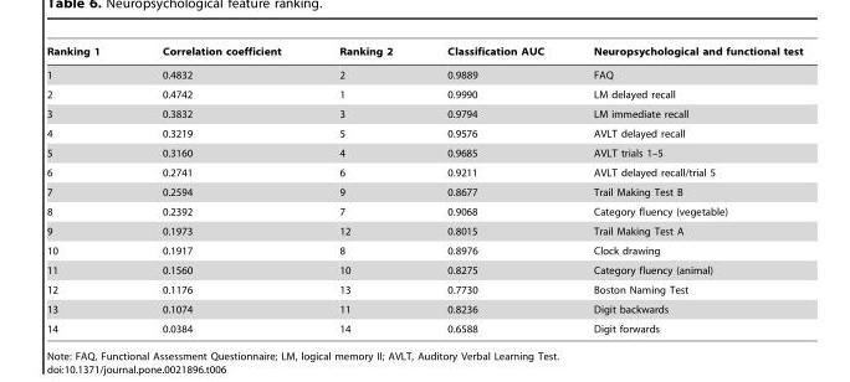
<table><thead><tr><td>Ranking 1</td><td>Correlation coefficient</td><td>Ranking 2</td><td>Classification AUC</td><td>Neuropsychological and functional test</td></tr></thead><tbody><tr><td>1</td><td>0.4832</td><td>2</td><td>0.9889</td><td>FAQ</td></tr><tr><td>2</td><td>0.4742</td><td>1</td><td>0.9990</td><td>LM delayed recall</td></tr><tr><td>3</td><td>0.3832</td><td>3</td><td>0.9794</td><td>LM immediate recall</td></tr><tr><td>4</td><td>0.3219</td><td>5</td><td>0.9576</td><td>AVLT delayed recall</td></tr><tr><td>5</td><td>0.3160</td><td>4</td><td>0.9685</td><td>AVLT trials 1–5</td></tr><tr><td>6</td><td>0.2741</td><td>6</td><td>0.9211</td><td>AVLT delayed recall/trial 5</td></tr><tr><td>7</td><td>0.2594</td><td>9</td><td>0.8677</td><td>Trail Making Test B</td></tr><tr><td>8</td><td>0.2392</td><td>7</td><td>0.9068</td><td>Category fluency (vegetable)</td></tr><tr><td>9</td><td>0.1973</td><td>12</td><td>0.8015</td><td>Trail Making Test A</td></tr><tr><td>10</td><td>0.1917</td><td>8</td><td>0.8976</td><td>Clock drawing</td></tr><tr><td>11</td><td>0.1560</td><td>10</td><td>0.8275</td><td>Category fluency (animal)</td></tr><tr><td>12</td><td>0.1176</td><td>13</td><td>0.7730</td><td>Boston Naming Test</td></tr><tr><td>13</td><td>0.1074</td><td>11</td><td>0.8236</td><td>Digit backwards</td></tr><tr><td>14</td><td>0.0384</td><td>14</td><td>0.6588</td><td>Digit forwards</td></tr></tbody></table>